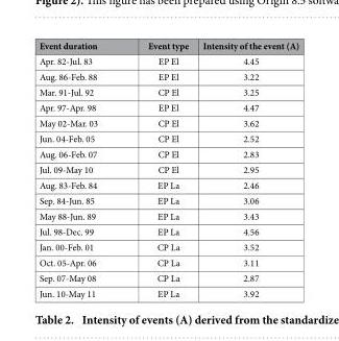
<table><thead><tr><td>Event duration</td><td>Event type</td><td>Intensity of the event (A)</td></tr></thead><tbody><tr><td>Apr. 82-Jul. 83</td><td>EP El</td><td>4.45</td></tr><tr><td>Aug. 86-Feb. 88</td><td>EP El</td><td>3.22</td></tr><tr><td>Mar. 91-Jul. 92</td><td>CP El</td><td>3.25</td></tr><tr><td>Apr. 97-Apr. 98</td><td>EP El</td><td>4.47</td></tr><tr><td>May 02-Mar. 03</td><td>CP El</td><td>3.62</td></tr><tr><td>Jun. 04-Feb. 05</td><td>CP El</td><td>2.52</td></tr><tr><td>Aug. 06-Feb. 07</td><td>CP El</td><td>2.83</td></tr><tr><td>Jul. 09-May 10</td><td>CP El</td><td>2.95</td></tr><tr><td>Aug. 83-Feb. 84</td><td>EP La</td><td>2.46</td></tr><tr><td>Sep. 84-Jun. 85</td><td>EP La</td><td>3.06</td></tr><tr><td>May 88-Jun. 89</td><td>EP La</td><td>3.43</td></tr><tr><td>Jul. 98-Dec. 99</td><td>EP La</td><td>4.56</td></tr><tr><td>Jan. 00-Feb. 01</td><td>CP La</td><td>3.52</td></tr><tr><td>Oct. 05-Apr. 06</td><td>CP La</td><td>3.11</td></tr><tr><td>Sep. 07-May 08</td><td>CP La</td><td>2.87</td></tr><tr><td>Jun. 10-May 11</td><td>EP La</td><td>3.92</td></tr></tbody></table>